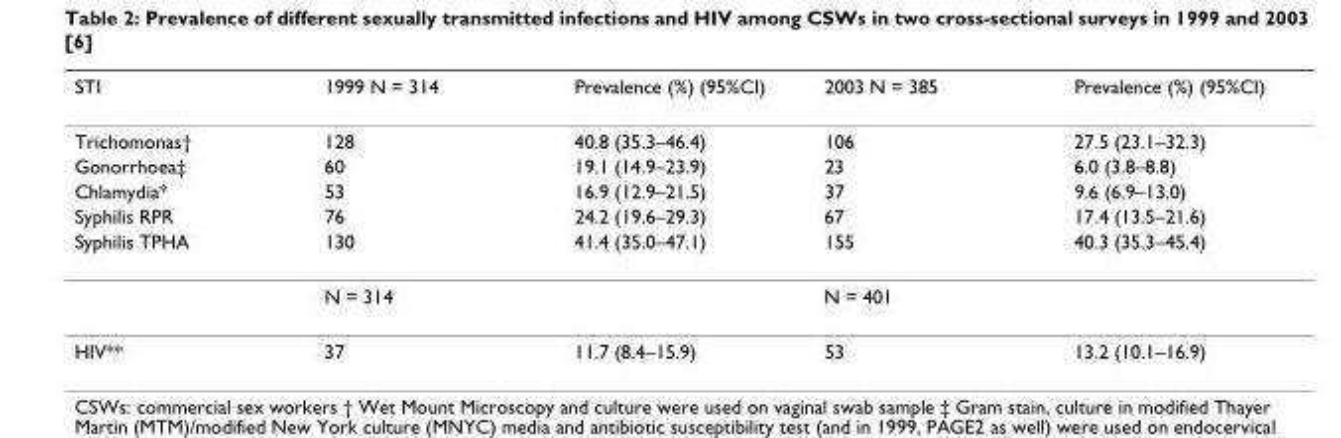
<table><thead><tr><td>STI</td><td>1999 N = 314</td><td>Prevalence (%) (95%CI)</td><td>2003 N = 385</td><td>Prevalence (%) (95%CI)</td></tr></thead><tbody><tr><td>Trichomonas†</td><td>128</td><td>40.8 (35.3–46.4)</td><td>106</td><td>27.5 (23.1–32.3)</td></tr><tr><td>Gonorrhoea‡</td><td>60</td><td>19.1 (14.9–23.9)</td><td>23</td><td>6.0 (3.8–8.8)</td></tr><tr><td>Chlamydia*</td><td>53</td><td>16.9 (12.9–21.5)</td><td>37</td><td>9.6 (6.9–13.0)</td></tr><tr><td>Syphilis RPR</td><td>76</td><td>24.2 (19.6–29.3)</td><td>67</td><td>17.4 (13.5–21.6)</td></tr><tr><td rowspan="2">Syphilis TPHA</td><td>130</td><td>41.4 (35.0–47.1)</td><td>155</td><td>40.3 (35.3–45.4)</td></tr><tr><td>N = 314</td><td></td><td>N = 401</td><td></td></tr><tr><td>HIV**</td><td>37</td><td>11.7 (8.4–15.9)</td><td>53</td><td>13.2 (10.1–16.9)</td></tr></tbody></table>